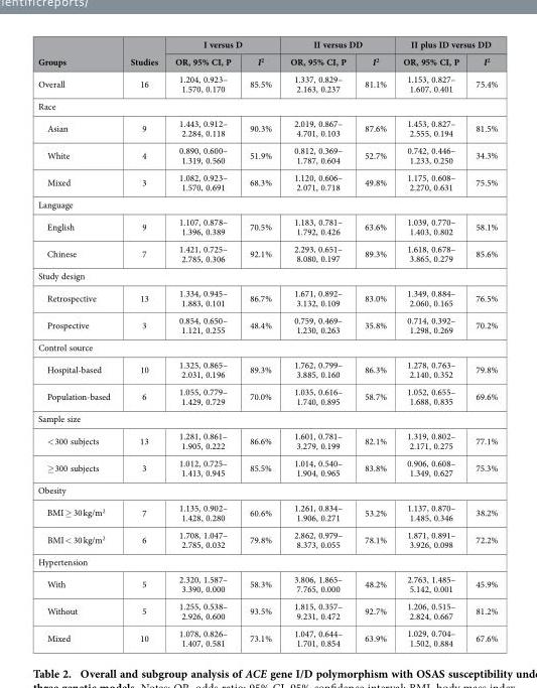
<table><thead><tr><td rowspan="2">Groups</td><td rowspan="2">Studies</td><td colspan="2">I versus D</td><td colspan="2">II versus DD</td><td colspan="2">II plus ID versus DD</td></tr><tr><td>OR, 95% CI, P</td><td>I<sup>2</sup></td><td>OR, 95% CI, P</td><td>I<sup>2</sup></td><td>OR, 95% CI, P</td><td>I<sup>2</sup></td></tr></thead><tbody><tr><td>Overall</td><td>16</td><td>1.204, 0.923– 1.570, 0.170</td><td>85.5%</td><td>1.337, 0.829– 2.163, 0.237</td><td>81.1%</td><td>1.153, 0.827– 1.607, 0.401</td><td>75.4%</td></tr><tr><td colspan="8">Race</td></tr><tr><td>Asian</td><td>9</td><td>1.443, 0.912– 2.284, 0.118</td><td>90.3%</td><td>2.019, 0.867– 4.701, 0.103</td><td>87.6%</td><td>1.453, 0.827– 2.555, 0.194</td><td>81.5%</td></tr><tr><td>White</td><td>4</td><td>0.890, 0.600– 1.319, 0.560</td><td>51.9%</td><td>0.812, 0.369– 1.787, 0.604</td><td>52.7%</td><td>0.742, 0.446– 1.233, 0.250</td><td>34.3%</td></tr><tr><td>Mixed</td><td>3</td><td>1.082, 0.923– 1.570, 0.691</td><td>68.3%</td><td>1.120, 0.606– 2.071, 0.718</td><td>49.8%</td><td>1.175, 0.608– 2.270, 0.631</td><td>75.5%</td></tr><tr><td colspan="8">Language</td></tr><tr><td>English</td><td>9</td><td>1.107, 0.878– 1.396, 0.389</td><td>70.5%</td><td>1.183, 0.781– 1.792, 0.426</td><td>63.6%</td><td>1.039, 0.770– 1.403, 0.802</td><td>58.1%</td></tr><tr><td>Chinese</td><td>7</td><td>1.421, 0.725– 2.785, 0.306</td><td>92.1%</td><td>2.293, 0.651– 8.080, 0.197</td><td>89.3%</td><td>1.618, 0.678– 3.865, 0.279</td><td>85.6%</td></tr><tr><td colspan="8">Study design</td></tr><tr><td>Retrospective</td><td>13</td><td>1.334, 0.945– 1.883, 0.101</td><td>86.7%</td><td>1.671, 0.892– 3.132, 0.109</td><td>83.0%</td><td>1.349, 0.884– 2.060, 0.165</td><td>76.5%</td></tr><tr><td>Prospective</td><td>3</td><td>0.854, 0.650– 1.121, 0.255</td><td>48.4%</td><td>0.759, 0.469– 1.230, 0.263</td><td>35.8%</td><td>0.714, 0.392– 1.298, 0.269</td><td>70.2%</td></tr><tr><td colspan="8">Control source</td></tr><tr><td>Hospital-based</td><td>10</td><td>1.325, 0.865– 2.031, 0.196</td><td>89.3%</td><td>1.762, 0.799– 3.885, 0.160</td><td>86.3%</td><td>1.278, 0.763– 2.140, 0.352</td><td>79.8%</td></tr><tr><td>Population-based</td><td>6</td><td>1.055, 0.779– 1.429, 0.729</td><td>70.0%</td><td>1.035, 0.616– 1.740, 0.895</td><td>58.7%</td><td>1.052, 0.655– 1.688, 0.835</td><td>69.6%</td></tr><tr><td colspan="8">Sample size</td></tr><tr><td>&lt; 300 subjects</td><td>13</td><td>1.281, 0.861– 1.905, 0.222</td><td>86.6%</td><td>1.601, 0.781– 3.279, 0.199</td><td>82.1%</td><td>1.319, 0.802– 2.171, 0.275</td><td>77.1%</td></tr><tr><td>≥ 300 subjects</td><td>3</td><td>1.012, 0.725– 1.413, 0.945</td><td>85.5%</td><td>1.014, 0.540– 1.904, 0.965</td><td>83.8%</td><td>0.906, 0.608– 1.349, 0.627</td><td>75.3%</td></tr><tr><td colspan="8">Obesity</td></tr><tr><td>BMI ≥ 30 kg/m<sup>2</sup></td><td>7</td><td>1.135, 0.902– 1.428, 0.280</td><td>60.6%</td><td>1.261, 0.834– 1.906, 0.271</td><td>53.2%</td><td>1.137, 0.870– 1.485, 0.346</td><td>38.2%</td></tr><tr><td>BMI &lt; 30 kg/m<sup>2</sup></td><td>6</td><td>1.708, 1.047– 2.785, 0.032</td><td>79.8%</td><td>2.862, 0.979– 8.373, 0.055</td><td>78.1%</td><td>1.871, 0.891– 3.926, 0.098</td><td>72.2%</td></tr><tr><td colspan="8">Hypertension</td></tr><tr><td>With</td><td>5</td><td>2.320, 1.587– 3.390, 0.000</td><td>58.3%</td><td>3.806, 1.865– 7.765, 0.000</td><td>48.2%</td><td>2.763, 1.485– 5.142, 0.001</td><td>45.9%</td></tr><tr><td>Without</td><td>5</td><td>1.255, 0.538– 2.926, 0.600</td><td>93.5%</td><td>1.815, 0.357– 9.231, 0.472</td><td>92.7%</td><td>1.206, 0.515– 2.824, 0.667</td><td>81.2%</td></tr><tr><td>Mixed</td><td>10</td><td>1.078, 0.826– 1.407, 0.581</td><td>73.1%</td><td>1.047, 0.644– 1.701, 0.854</td><td>63.9%</td><td>1.029, 0.704– 1.502, 0.884</td><td>67.6%</td></tr></tbody></table>